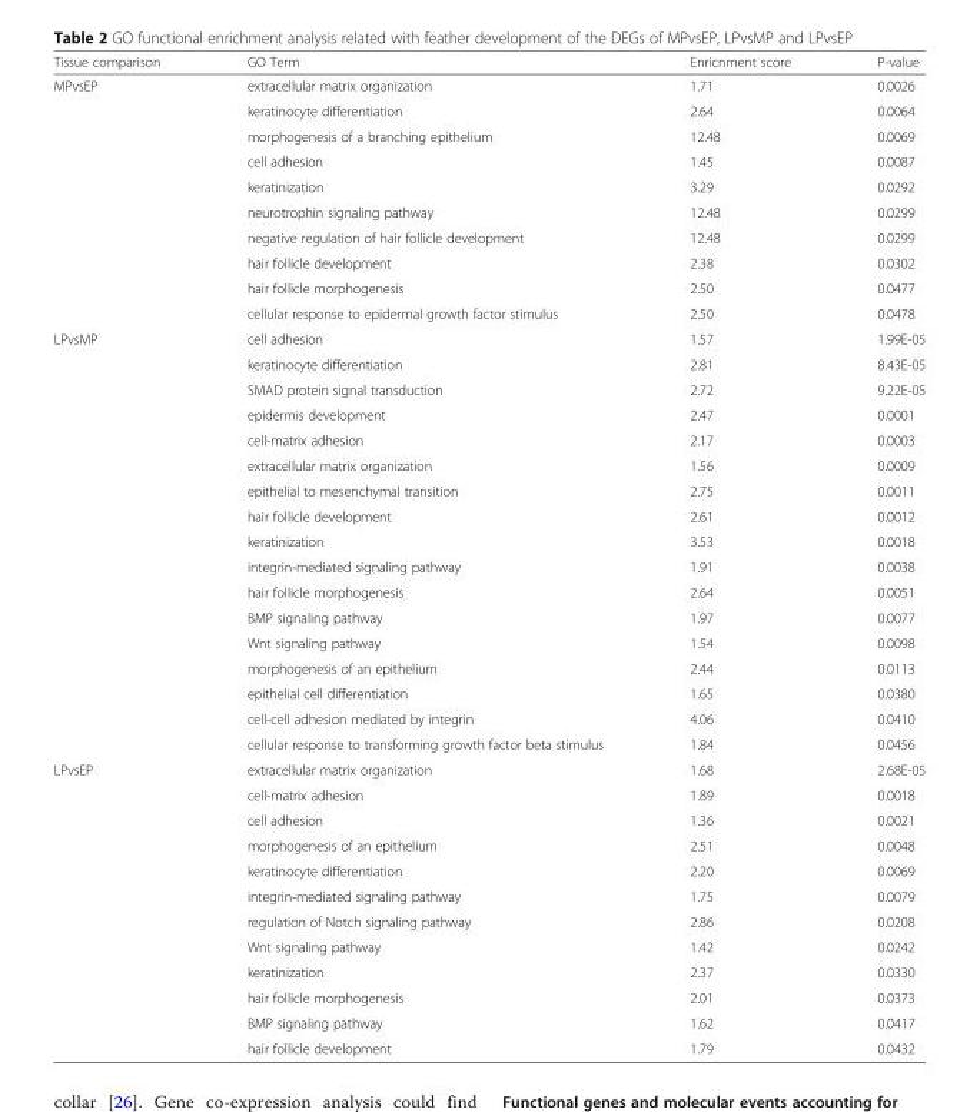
<table><thead><tr><td>Tissue comparison</td><td>GO Term</td><td>Enricnment score</td><td>P-value</td></tr></thead><tbody><tr><td rowspan="10">MPvsEP</td><td>extracellular matrix organization</td><td>1.71</td><td>0.0026</td></tr><tr><td>keratinocyte differentiation</td><td>2.64</td><td>0.0064</td></tr><tr><td>morphogenesis of a branching epithelium</td><td>12.48</td><td>0.0069</td></tr><tr><td>cell adhesion</td><td>1.45</td><td>0.0087</td></tr><tr><td>keratinization</td><td>3.29</td><td>0.0292</td></tr><tr><td>neurotrophin signaling pathway</td><td>12.48</td><td>0.0299</td></tr><tr><td>negative regulation of hair follicle development</td><td>12.48</td><td>0.0299</td></tr><tr><td>hair follicle development</td><td>2.38</td><td>0.0302</td></tr><tr><td>hair follicle morphogenesis</td><td>2.50</td><td>0.0477</td></tr><tr><td>cellular response to epidermal growth factor stimulus</td><td>2.50</td><td>0.0478</td></tr><tr><td rowspan="17">LPvsMP</td><td>cell adhesion</td><td>1.57</td><td>1.99E-05</td></tr><tr><td>keratinocyte differentiation</td><td>2.81</td><td>8.43E-05</td></tr><tr><td>SMAD protein signal transduction</td><td>2.72</td><td>9.22E-05</td></tr><tr><td>epidermis development</td><td>2.47</td><td>0.0001</td></tr><tr><td>cell-matrix adhesion</td><td>2.17</td><td>0.0003</td></tr><tr><td>extracellular matrix organization</td><td>1.56</td><td>0.0009</td></tr><tr><td>epithelial to mesenchymal transition</td><td>2.75</td><td>0.0011</td></tr><tr><td>hair follicle development</td><td>2.61</td><td>0.0012</td></tr><tr><td>keratinization</td><td>3.53</td><td>0.0018</td></tr><tr><td>integrin-mediated signaling pathway</td><td>1.91</td><td>0.0038</td></tr><tr><td>hair follicle morphogenesis</td><td>2.64</td><td>0.0051</td></tr><tr><td>BMP signaling pathway</td><td>1.97</td><td>0.0077</td></tr><tr><td>Wnt signaling pathway</td><td>1.54</td><td>0.0098</td></tr><tr><td>morphogenesis of an epithelium</td><td>2.44</td><td>0.0113</td></tr><tr><td>epithelial cell differentiation</td><td>1.65</td><td>0.0380</td></tr><tr><td>cell-cell adhesion mediated by integrin</td><td>4.06</td><td>0.0410</td></tr><tr><td>cellular response to transforming growth factor beta stimulus</td><td>1.84</td><td>0.0456</td></tr><tr><td rowspan="12">LPvsEP</td><td>extracellular matrix organization</td><td>1.68</td><td>2.68E-05</td></tr><tr><td>cell-matrix adhesion</td><td>1.89</td><td>0.0018</td></tr><tr><td>cell adhesion</td><td>1.36</td><td>0.0021</td></tr><tr><td>morphogenesis of an epithelium</td><td>2.51</td><td>0.0048</td></tr><tr><td>keratinocyte differentiation</td><td>2.20</td><td>0.0069</td></tr><tr><td>integrin-mediated signaling pathway</td><td>1.75</td><td>0.0079</td></tr><tr><td>regulation of Notch signaling pathway</td><td>2.86</td><td>0.0208</td></tr><tr><td>Wnt signaling pathway</td><td>1.42</td><td>0.0242</td></tr><tr><td>keratinization</td><td>2.37</td><td>0.0330</td></tr><tr><td>hair follicle morphogenesis</td><td>2.01</td><td>0.0373</td></tr><tr><td>BMP signaling pathway</td><td>1.62</td><td>0.0417</td></tr><tr><td>hair follicle development</td><td>1.79</td><td>0.0432</td></tr></tbody></table>